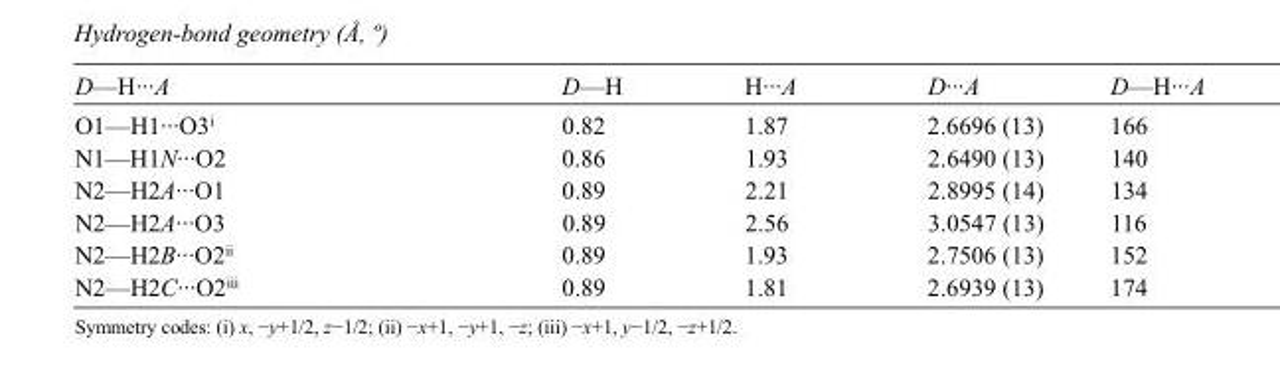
<table><tbody><tr><td>D—H···A</td><td>D—H</td><td>H···A</td><td>D···A</td><td>D—H···A</td></tr><tr><td>O1—H1···O3<sup>i</sup></td><td>0.82</td><td>1.87</td><td>2.6696 (13)</td><td>166</td></tr><tr><td>N1—H1N···O2</td><td>0.86</td><td>1.93</td><td>2.6490 (13)</td><td>140</td></tr><tr><td>N2—H2A···O1</td><td>0.89</td><td>2.21</td><td>2.8995 (14)</td><td>134</td></tr><tr><td>N2—H2A···O3</td><td>0.89</td><td>2.56</td><td>3.0547 (13)</td><td>116</td></tr><tr><td>N2—H2B···O2<sup>ii</sup></td><td>0.89</td><td>1.93</td><td>2.7506 (13)</td><td>152</td></tr><tr><td>N2—H2C···O2<sup>iii</sup></td><td>0.89</td><td>1.81</td><td>2.6939 (13)</td><td>174</td></tr></tbody></table>